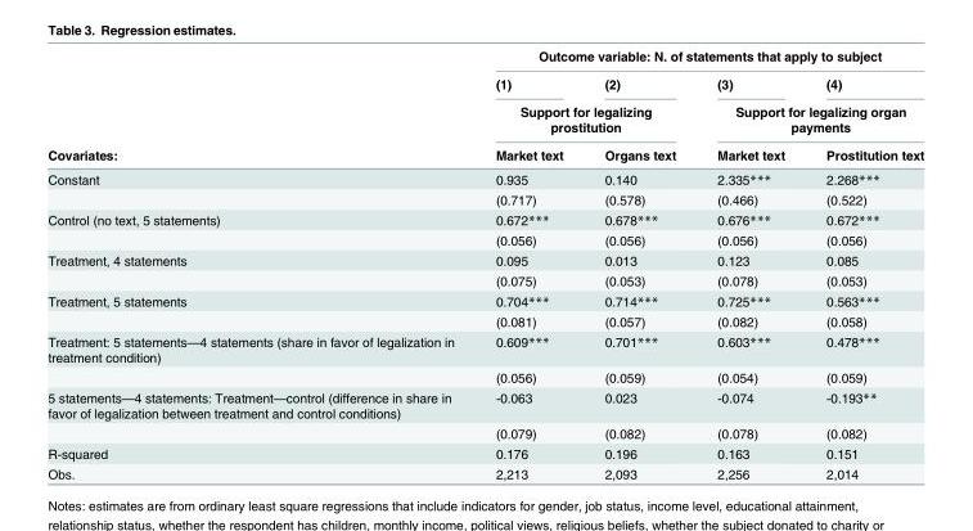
<table><thead><tr><td rowspan="4">Covariates:</td><td colspan="4">Outcome variable: N. of statements that apply to subject</td></tr><tr><td>(1)</td><td>(2)</td><td>(3)</td><td>(4)</td></tr><tr><td colspan="2">Support for legalizing prostitution</td><td colspan="2">Support for legalizing organ payments</td></tr><tr><td>Market text</td><td>Organs text</td><td>Market text</td><td>Prostitution text</td></tr></thead><tbody><tr><td rowspan="2">Constant</td><td>0.935</td><td>0.140</td><td>2.335***</td><td>2.268***</td></tr><tr><td>(0.717)</td><td>(0.578)</td><td>(0.466)</td><td>(0.522)</td></tr><tr><td rowspan="2">Control (no text, 5 statements)</td><td>0.672***</td><td>0.678***</td><td>0.676***</td><td>0.672***</td></tr><tr><td>(0.056)</td><td>(0.056)</td><td>(0.056)</td><td>(0.056)</td></tr><tr><td rowspan="2">Treatment, 4 statements</td><td>0.095</td><td>0.013</td><td>0.123</td><td>0.085</td></tr><tr><td>(0.075)</td><td>(0.053)</td><td>(0.078)</td><td>(0.053)</td></tr><tr><td rowspan="2">Treatment, 5 statements</td><td>0.704***</td><td>0.714***</td><td>0.725***</td><td>0.563***</td></tr><tr><td>(0.081)</td><td>(0.057)</td><td>(0.082)</td><td>(0.058)</td></tr><tr><td rowspan="2">Treatment: 5 statements—4 statements (share in favor of legalization in treatment condition)</td><td>0.609***</td><td>0.701***</td><td>0.603***</td><td>0.478***</td></tr><tr><td>(0.056)</td><td>(0.059)</td><td>(0.054)</td><td>(0.059)</td></tr><tr><td rowspan="2">5 statements—4 statements: Treatment—control (difference in share in favor of legalization between treatment and control conditions)</td><td>-0.063</td><td>0.023</td><td>-0.074</td><td>-0.193**</td></tr><tr><td>(0.079)</td><td>(0.082)</td><td>(0.078)</td><td>(0.082)</td></tr><tr><td>R-squared</td><td>0.176</td><td>0.196</td><td>0.163</td><td>0.151</td></tr><tr><td>Obs.</td><td>2,213</td><td>2,093</td><td>2,256</td><td>2,014</td></tr></tbody></table>